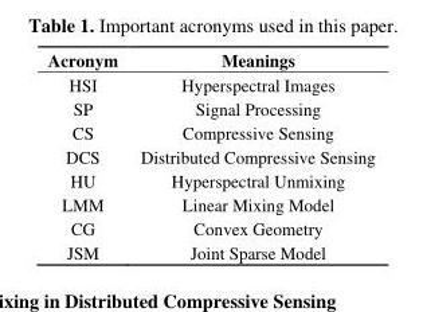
<table><thead><tr><td>Acronym</td><td>Meanings</td></tr></thead><tbody><tr><td>HSI</td><td>Hyperspectral Images</td></tr><tr><td>SP</td><td>Signal Processing</td></tr><tr><td>CS</td><td>Compressive Sensing</td></tr><tr><td>DCS</td><td>Distributed Compressive Sensing</td></tr><tr><td>HU</td><td>Hyperspectral Unmixing</td></tr><tr><td>LMM</td><td>Linear Mixing Model</td></tr><tr><td>CG</td><td>Convex Geometry</td></tr><tr><td>JSM</td><td>Joint Sparse Model</td></tr></tbody></table>